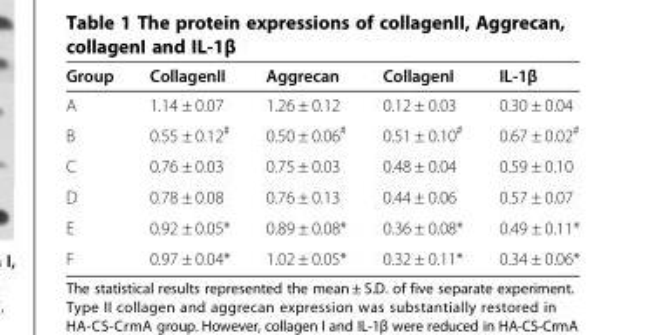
<table><thead><tr><td>Group</td><td>CollagenII</td><td>Aggrecan</td><td>CollagenI</td><td>IL-1β</td></tr></thead><tbody><tr><td>A</td><td>1.14 ± 0.07</td><td>1.26 ± 0.12</td><td>0.12 ± 0.03</td><td>0.30 ± 0.04</td></tr><tr><td>B</td><td>0.55 ± 0.12<sup>#</sup></td><td>0.50 ± 0.06<sup>#</sup></td><td>0.51 ± 0.10<sup>#</sup></td><td>0.67 ± 0.02<sup>#</sup></td></tr><tr><td>C</td><td>0.76 ± 0.03</td><td>0.75 ± 0.03</td><td>0.48 ± 0.04</td><td>0.59 ± 0.10</td></tr><tr><td>D</td><td>0.78 ± 0.08</td><td>0.76 ± 0.13</td><td>0.44 ± 0.06</td><td>0.57 ± 0.07</td></tr><tr><td>E</td><td>0.92 ± 0.05*</td><td>0.89 ± 0.08*</td><td>0.36 ± 0.08*</td><td>0.49 ± 0.11*</td></tr><tr><td>F</td><td>0.97 ± 0.04*</td><td>1.02 ± 0.05*</td><td>0.32 ± 0.11*</td><td>0.34 ± 0.06*</td></tr></tbody></table>